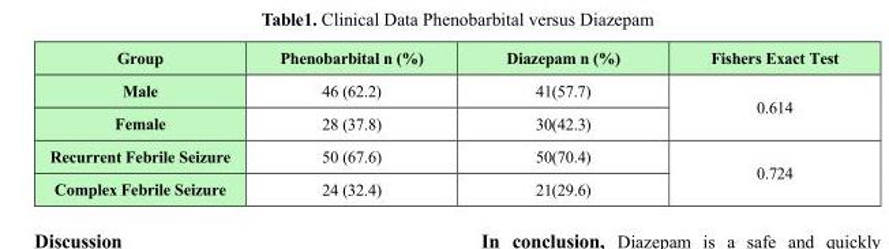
<table><thead><tr><td>Group</td><td>Phenobarbital n (%)</td><td>Diazepam n (%)</td><td>Fishers Exact Test</td></tr></thead><tbody><tr><td>Male</td><td>46 (62.2)</td><td>41(57.7)</td><td rowspan="2">0.614</td></tr><tr><td>Female</td><td>28 (37.8)</td><td>30(42.3)</td></tr><tr><td>Recurrent Febrile Seizure</td><td>50 (67.6)</td><td>50(70.4)</td><td rowspan="2">0.724</td></tr><tr><td>Complex Febrile Seizure</td><td>24 (32.4)</td><td>21(29.6)</td></tr></tbody></table>